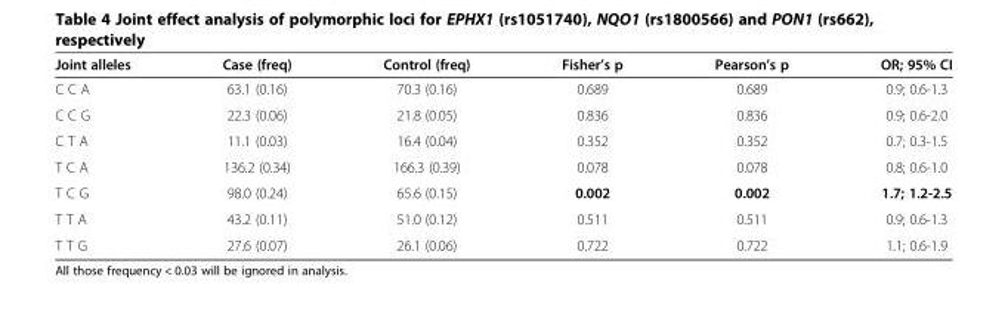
<table><thead><tr><td>Joint alleles</td><td>Case (freq)</td><td>Control (freq)</td><td>Fisher’s p</td><td>Pearson’s p</td><td>OR; 95% CI</td></tr></thead><tbody><tr><td>C C A</td><td>63.1 (0.16)</td><td>70.3 (0.16)</td><td>0.689</td><td>0.689</td><td>0.9; 0.6-1.3</td></tr><tr><td>C C G</td><td>22.3 (0.06)</td><td>21.8 (0.05)</td><td>0.836</td><td>0.836</td><td>0.9; 0.6-2.0</td></tr><tr><td>C T A</td><td>11.1 (0.03)</td><td>16.4 (0.04)</td><td>0.352</td><td>0.352</td><td>0.7; 0.3-1.5</td></tr><tr><td>T C A</td><td>136.2 (0.34)</td><td>166.3 (0.39)</td><td>0.078</td><td>0.078</td><td>0.8; 0.6-1.0</td></tr><tr><td>T C G</td><td>98.0 (0.24)</td><td>65.6 (0.15)</td><td>0.002</td><td>0.002</td><td>1.7; 1.2-2.5</td></tr><tr><td>T T A</td><td>43.2 (0.11)</td><td>51.0 (0.12)</td><td>0.511</td><td>0.511</td><td>0.9; 0.6-1.3</td></tr><tr><td>T T G</td><td>27.6 (0.07)</td><td>26.1 (0.06)</td><td>0.722</td><td>0.722</td><td>1.1; 0.6-1.9</td></tr></tbody></table>